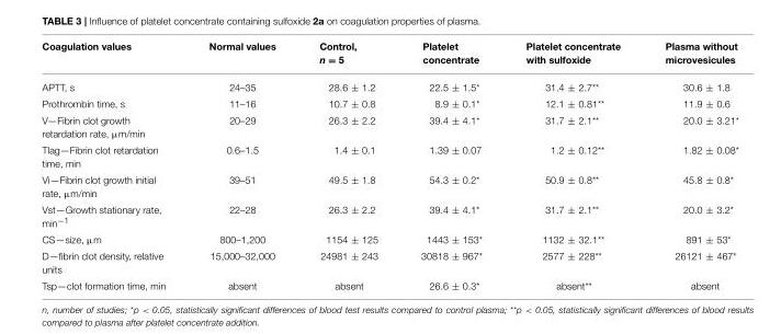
<table><thead><tr><td>Coagulation values</td><td>Normal values</td><td>Control, n = 5</td><td>Platelet concentrate</td><td>Platelet concentrate with sulfoxide</td><td>Plasma without microvesicules</td></tr></thead><tbody><tr><td>APTT, s</td><td>24–35</td><td>28.6 ± 1.2</td><td>22.5 ± 1.5*</td><td>31.4 ± 2.7**</td><td>30.6 ± 1.8</td></tr><tr><td>Prothrombin time, s</td><td>11–16</td><td>10.7 ± 0.8</td><td>8.9 ± 0.1*</td><td>12.1 ± 0.81**</td><td>11.9 ± 0.6</td></tr><tr><td>V—Fibrin clot growth retardation rate, µm/min</td><td>20–29</td><td>26.3 ± 2.2</td><td>39.4 ± 4.1*</td><td>31.7 ± 2.1**</td><td>20.0 ± 3.21*</td></tr><tr><td>Tlag—Fibrin clot retardation time, min</td><td>0.6–1.5</td><td>1.4 ± 0.1</td><td>1.39 ± 0.07</td><td>1.2 ± 0.12**</td><td>1.82 ± 0.08*</td></tr><tr><td>Vi—Fibrin clot growth initial rate, µm/min</td><td>39–51</td><td>49.5 ± 1.8</td><td>54.3 ± 0.2*</td><td>50.9 ± 0.8**</td><td>45.8 ± 0.8*</td></tr><tr><td>Vst—Growth stationary rate, min<sup>−1</sup></td><td>22–28</td><td>26.3 ± 2.2</td><td>39.4 ± 4.1*</td><td>31.7 ± 2.1**</td><td>20.0 ± 3.2*</td></tr><tr><td>CS—size, µm</td><td>800–1,200</td><td>1154 ± 125</td><td>1443 ± 153*</td><td>1132 ± 32.1**</td><td>891 ± 53*</td></tr><tr><td>D—fibrin clot density, relative units</td><td>15,000–32,000</td><td>24981 ± 243</td><td>30818 ± 967*</td><td>2577 ± 228**</td><td>26121 ± 467*</td></tr><tr><td>Tsp—clot formation time, min</td><td>absent</td><td>absent</td><td>26.6 ± 0.3*</td><td>absent**</td><td>absent</td></tr></tbody></table>